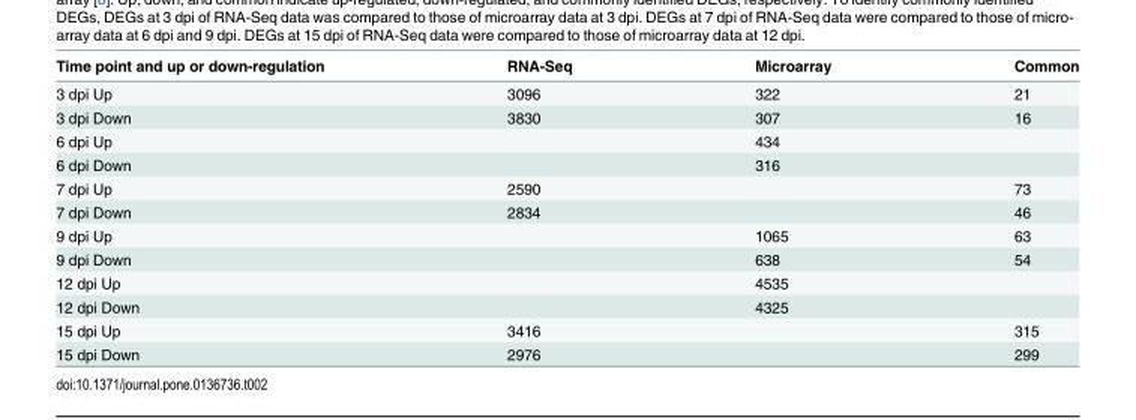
<table><thead><tr><td>Time point and up or down-regulation</td><td>RNA-Seq</td><td>Microarray</td><td>Common</td></tr></thead><tbody><tr><td>3 dpi Up</td><td>3096</td><td>322</td><td>21</td></tr><tr><td>3 dpi Down</td><td>3830</td><td>307</td><td>16</td></tr><tr><td>6 dpi Up</td><td></td><td>434</td><td></td></tr><tr><td>6 dpi Down</td><td></td><td>316</td><td></td></tr><tr><td>7 dpi Up</td><td>2590</td><td></td><td>73</td></tr><tr><td>7 dpi Down</td><td>2834</td><td></td><td>46</td></tr><tr><td>9 dpi Up</td><td></td><td>1065</td><td>63</td></tr><tr><td>9 dpi Down</td><td></td><td>638</td><td>54</td></tr><tr><td>12 dpi Up</td><td></td><td>4535</td><td></td></tr><tr><td>12 dpi Down</td><td></td><td>4325</td><td></td></tr><tr><td>15 dpi Up</td><td>3416</td><td></td><td>315</td></tr><tr><td>15 dpi Down</td><td>2976</td><td></td><td>299</td></tr></tbody></table>